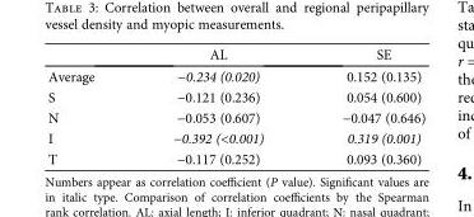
<table><thead><tr><td></td><td>AL</td><td>SE</td></tr></thead><tbody><tr><td>Average</td><td>−0.234 (0.020)</td><td>0.152 (0.135)</td></tr><tr><td>S</td><td>−0.121 (0.236)</td><td>0.054 (0.600)</td></tr><tr><td>N</td><td>−0.053 (0.607)</td><td>−0.047 (0.646)</td></tr><tr><td>I</td><td>−0.392 (&lt;0.001)</td><td>0.319 (0.001)</td></tr><tr><td>T</td><td>−0.117 (0.252)</td><td>0.093 (0.360)</td></tr></tbody></table>